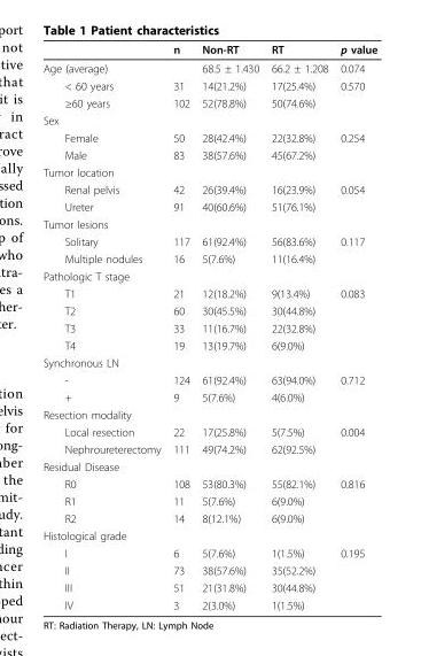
<table><thead><tr><td></td><td>n</td><td>Non-RT</td><td>RT</td><td>p value</td></tr></thead><tbody><tr><td>Age (average)</td><td></td><td>68.5 ± 1.430</td><td>66.2 ± 1.208</td><td>0.074</td></tr><tr><td>&lt; 60 years</td><td>31</td><td>14(21.2%)</td><td>17(25.4%)</td><td>0.570</td></tr><tr><td>≥60 years</td><td>102</td><td>52(78.8%)</td><td>50(74.6%)</td><td></td></tr><tr><td colspan="5">Sex</td></tr><tr><td>Female</td><td>50</td><td>28(42.4%)</td><td>22(32.8%)</td><td>0.254</td></tr><tr><td>Male</td><td>83</td><td>38(57.6%)</td><td>45(67.2%)</td><td></td></tr><tr><td colspan="5">Tumor location</td></tr><tr><td>Renal pelvis</td><td>42</td><td>26(39.4%)</td><td>16(23.9%)</td><td>0.054</td></tr><tr><td>Ureter</td><td>91</td><td>40(60.6%)</td><td>51(76.1%)</td><td></td></tr><tr><td colspan="5">Tumor lesions</td></tr><tr><td>Solitary</td><td>117</td><td>61(92.4%)</td><td>56(83.6%)</td><td>0.117</td></tr><tr><td>Multiple nodules</td><td>16</td><td>5(7.6%)</td><td>11(16.4%)</td><td></td></tr><tr><td colspan="5">Pathologic T stage</td></tr><tr><td>T1</td><td>21</td><td>12(18.2%)</td><td>9(13.4%)</td><td>0.083</td></tr><tr><td>T2</td><td>60</td><td>30(45.5%)</td><td>30(44.8%)</td><td></td></tr><tr><td>T3</td><td>33</td><td>11(16.7%)</td><td>22(32.8%)</td><td></td></tr><tr><td>T4</td><td>19</td><td>13(19.7%)</td><td>6(9.0%)</td><td></td></tr><tr><td colspan="5">Synchronous LN</td></tr><tr><td>-</td><td>124</td><td>61(92.4%)</td><td>63(94.0%)</td><td>0.712</td></tr><tr><td>+</td><td>9</td><td>5(7.6%)</td><td>4(6.0%)</td><td></td></tr><tr><td colspan="5">Resection modality</td></tr><tr><td>Local resection</td><td>22</td><td>17(25.8%)</td><td>5(7.5%)</td><td>0.004</td></tr><tr><td>Nephroureterectomy</td><td>111</td><td>49(74.2%)</td><td>62(92.5%)</td><td></td></tr><tr><td colspan="5">Residual Disease</td></tr><tr><td>R0</td><td>108</td><td>53(80.3%)</td><td>55(82.1%)</td><td>0.816</td></tr><tr><td>R1</td><td>11</td><td>5(7.6%)</td><td>6(9.0%)</td><td></td></tr><tr><td>R2</td><td>14</td><td>8(12.1%)</td><td>6(9.0%)</td><td></td></tr><tr><td colspan="5">Histological grade</td></tr><tr><td>I</td><td>6</td><td>5(7.6%)</td><td>1(1.5%)</td><td>0.195</td></tr><tr><td>II</td><td>73</td><td>38(57.6%)</td><td>35(52.2%)</td><td></td></tr><tr><td>III</td><td>51</td><td>21(31.8%)</td><td>30(44.8%)</td><td></td></tr><tr><td>IV</td><td>3</td><td>2(3.0%)</td><td>1(1.5%)</td><td></td></tr></tbody></table>